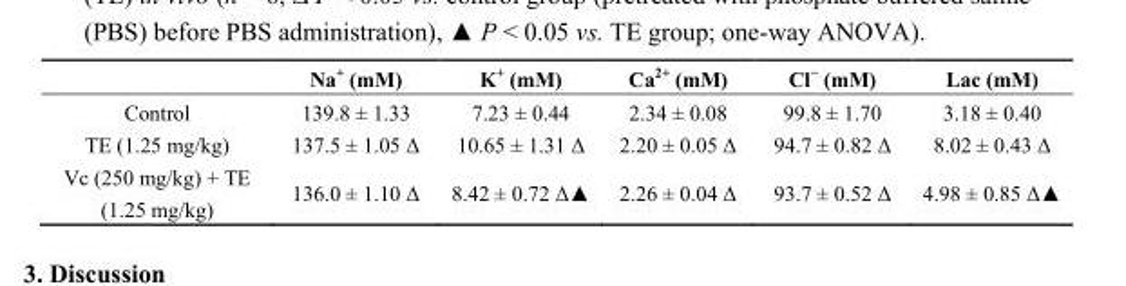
<table><thead><tr><td></td><td>Na<sup>+</sup> (mM)</td><td>K<sup>+</sup> (mM)</td><td>Ca<sup>2+</sup> (mM)</td><td>Cl<sup>−</sup> (mM)</td><td>Lac (mM)</td></tr></thead><tbody><tr><td>Control</td><td>139.8 ± 1.33</td><td>7.23 ± 0.44</td><td>2.34 ± 0.08</td><td>99.8 ± 1.70</td><td>3.18 ± 0.40</td></tr><tr><td>TE (1.25 mg/kg)</td><td>137.5 ± 1.05 Δ</td><td>10.65 ± 1.31 Δ</td><td>2.20 ± 0.05 Δ</td><td>94.7 ± 0.82 Δ</td><td>8.02 ± 0.43 Δ</td></tr><tr><td>Vc (250 mg/kg) + TE (1.25 mg/kg)</td><td>136.0 ± 1.10 Δ</td><td>8.42 ± 0.72 Δ▲</td><td>2.26 ± 0.04 Δ</td><td>93.7 ± 0.52 Δ</td><td>4.98 ± 0.85 Δ▲</td></tr></tbody></table>